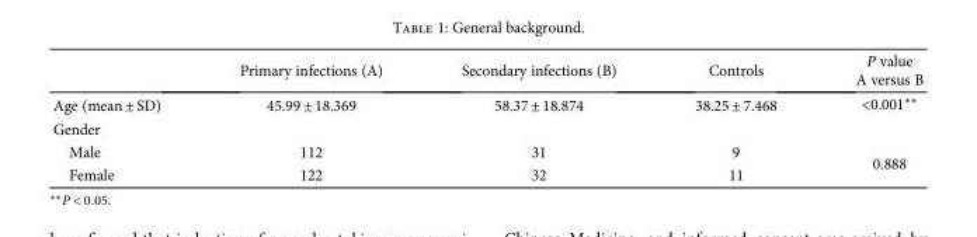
<table><thead><tr><td rowspan="2"></td><td rowspan="2">Primary infections (A)</td><td rowspan="2">Secondary infections (B)</td><td rowspan="2">Controls</td><td rowspan="2">P value A versus B</td></tr><tr></tr></thead><tbody><tr><td>Age (mean ± SD)</td><td>45.99 ± 18.369</td><td>58.37 ± 18.874</td><td>38.25 ± 7.468</td><td>&lt;0.001∗∗</td></tr><tr><td colspan="5">Gender</td></tr><tr><td>Male</td><td>112</td><td>31</td><td>9</td><td rowspan="2">0.888</td></tr><tr><td>Female</td><td>122</td><td>32</td><td>11</td></tr></tbody></table>